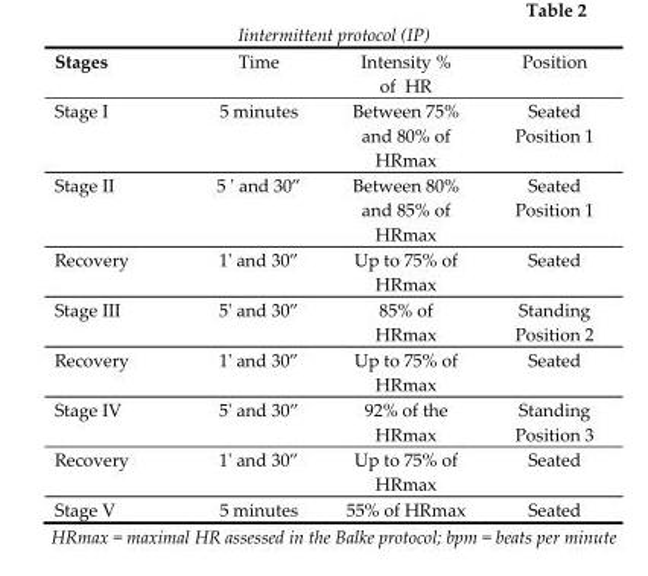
<table><thead><tr><td>Stages</td><td>Time</td><td>Intensity % of HR</td><td>Position</td></tr></thead><tbody><tr><td>Stage I</td><td>5 minutes</td><td>Between 75% and 80% of HRmax</td><td>Seated Position 1</td></tr><tr><td>Stage II</td><td>5 &#x27; and 30”</td><td>Between 80% and 85% of HRmax</td><td>Seated Position 1</td></tr><tr><td>Recovery</td><td>1&#x27; and 30”</td><td>Up to 75% of HRmax</td><td>Seated</td></tr><tr><td>Stage III</td><td>5&#x27; and 30”</td><td>85% of HRmax</td><td>Standing Position 2</td></tr><tr><td>Recovery</td><td>1&#x27; and 30”</td><td>Up to 75% of HRmax</td><td>Seated</td></tr><tr><td>Stage IV</td><td>5&#x27; and 30”</td><td>92% of the HRmax</td><td>Standing Position 3</td></tr><tr><td>Recovery</td><td>1&#x27; and 30”</td><td>Up to 75% of HRmax</td><td>Seated</td></tr><tr><td>Stage V</td><td>5 minutes</td><td>55% of HRmax</td><td>Seated</td></tr></tbody></table>